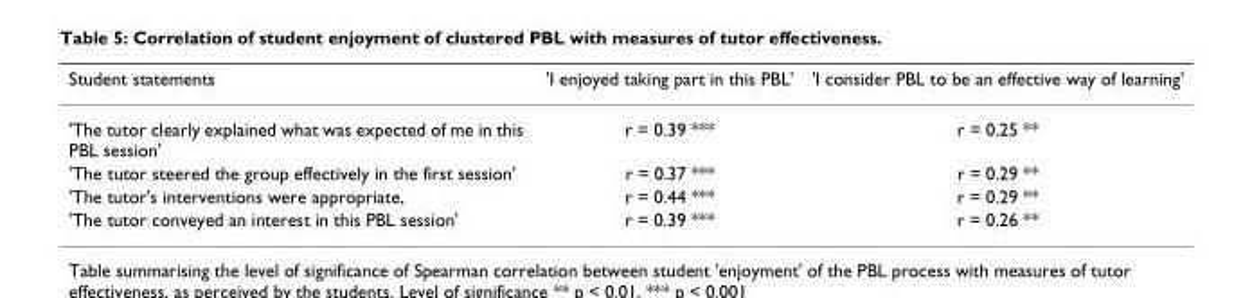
<table><thead><tr><td>Student statements</td><td>&#x27;I enjoyed taking part in this PBL&#x27;</td><td>&#x27;I consider PBL to be an effective way of learning&#x27;</td></tr></thead><tbody><tr><td>&#x27;The tutor clearly explained what was expected of me in this PBL session&#x27;</td><td>r = 0.39 ***</td><td>r = 0.25 **</td></tr><tr><td>&#x27;The tutor steered the group effectively in the first session&#x27;</td><td>r = 0.37 ***</td><td>r = 0.29 **</td></tr><tr><td>&#x27;The tutor&#x27;s interventions were appropriate,</td><td>r = 0.44 ***</td><td>r = 0.29 **</td></tr><tr><td>&#x27;The tutor conveyed an interest in this PBL session&#x27;</td><td>r = 0.39 ***</td><td>r = 0.26 **</td></tr></tbody></table>